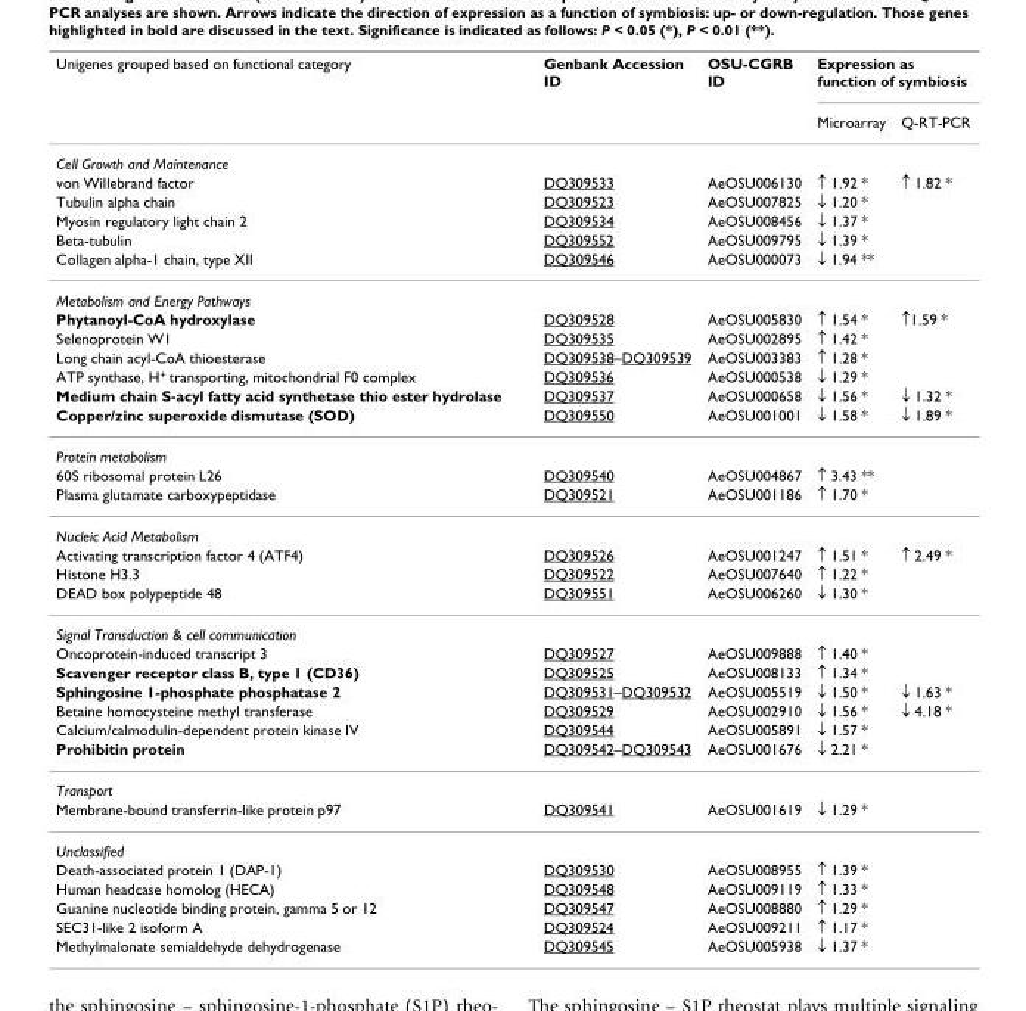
<table><thead><tr><td rowspan="2">Unigenes grouped based on functional category</td><td rowspan="2">Genbank Accession ID</td><td rowspan="2">OSU-CGRB ID</td><td colspan="2">Expression as function of symbiosis</td></tr><tr><td>Microarray</td><td>Q-RT-PCR</td></tr></thead><tbody><tr><td colspan="5">Cell Growth and Maintenance</td></tr><tr><td>von Willebrand factor</td><td>DQ309533</td><td>AeOSU006130</td><td>↑ 1.92 *</td><td>↑ 1.82 *</td></tr><tr><td>Tubulin alpha chain</td><td>DQ309523</td><td>AeOSU007825</td><td>↓ 1.20 *</td><td></td></tr><tr><td>Myosin regulatory light chain 2</td><td>DQ309534</td><td>AeOSU008456</td><td>↓ 1.37 *</td><td></td></tr><tr><td>Beta-tubulin</td><td>DQ309552</td><td>AeOSU009795</td><td>↓ 1.39 *</td><td></td></tr><tr><td>Collagen alpha-1 chain, type XII</td><td>DQ309546</td><td>AeOSU000073</td><td>↓ 1.94 **</td><td></td></tr><tr><td colspan="5">Metabolism and Energy Pathways</td></tr><tr><td>Phytanoyl-CoA hydroxylase</td><td>DQ309528</td><td>AeOSU005830</td><td>↑ 1.54 *</td><td>↑1.59 *</td></tr><tr><td>Selenoprotein W1</td><td>DQ309535</td><td>AeOSU002895</td><td>↑ 1.42 *</td><td></td></tr><tr><td>Long chain acyl-CoA thioesterase</td><td>DQ309538–DQ309539</td><td>AeOSU003383</td><td>↑ 1.28 *</td><td></td></tr><tr><td>ATP synthase, H+ transporting, mitochondrial F0 complex</td><td>DQ309536</td><td>AeOSU000538</td><td>↓ 1.29 *</td><td></td></tr><tr><td>Medium chain S-acyl fatty acid synthetase thio ester hydrolase</td><td>DQ309537</td><td>AeOSU000658</td><td>↓ 1.56 *</td><td>↓ 1.32 *</td></tr><tr><td>Copper/zinc superoxide dismutase (SOD)</td><td>DQ309550</td><td>AeOSU001001</td><td>↓ 1.58 *</td><td>↓ 1.89 *</td></tr><tr><td colspan="5">Protein metabolism</td></tr><tr><td>60S ribosomal protein L26</td><td>DQ309540</td><td>AeOSU004867</td><td>↑ 3.43 **</td><td></td></tr><tr><td>Plasma glutamate carboxypeptidase</td><td>DQ309521</td><td>AeOSU001186</td><td>↑ 1.70 *</td><td></td></tr><tr><td colspan="5">Nucleic Acid Metabolism</td></tr><tr><td>Activating transcription factor 4 (ATF4)</td><td>DQ309526</td><td>AeOSU001247</td><td>↑ 1.51 *</td><td>↑ 2.49 *</td></tr><tr><td>Histone H3.3</td><td>DQ309522</td><td>AeOSU007640</td><td>↑ 1.22 *</td><td></td></tr><tr><td>DEAD box polypeptide 48</td><td>DQ309551</td><td>AeOSU006260</td><td>↓ 1.30 *</td><td></td></tr><tr><td colspan="5">Signal Transduction &amp; cell communication</td></tr><tr><td>Oncoprotein-induced transcript 3</td><td>DQ309527</td><td>AeOSU009888</td><td>↑ 1.40 *</td><td></td></tr><tr><td>Scavenger receptor class B, type 1 (CD36)</td><td>DQ309525</td><td>AeOSU008133</td><td>↑ 1.34 *</td><td></td></tr><tr><td>Sphingosine 1-phosphate phosphatase 2</td><td>DQ309531–DQ309532</td><td>AeOSU005519</td><td>↓ 1.50 *</td><td>↓ 1.63 *</td></tr><tr><td>Betaine homocysteine methyl transferase</td><td>DQ309529</td><td>AeOSU002910</td><td>↓ 1.56 *</td><td>↓ 4.18 *</td></tr><tr><td>Calcium/calmodulin-dependent protein kinase IV</td><td>DQ309544</td><td>AeOSU005891</td><td>↓ 1.57 *</td><td></td></tr><tr><td>Prohibitin protein</td><td>DQ309542–DQ309543</td><td>AeOSU001676</td><td>↓ 2.21 *</td><td></td></tr><tr><td colspan="5">Transport</td></tr><tr><td>Membrane-bound transferrin-like protein p97</td><td>DQ309541</td><td>AeOSU001619</td><td>↓ 1.29 *</td><td></td></tr><tr><td colspan="5">Unclassified</td></tr><tr><td>Death-associated protein 1 (DAP-1)</td><td>DQ309530</td><td>AeOSU008955</td><td>↑ 1.39 *</td><td></td></tr><tr><td>Human headcase homolog (HECA)</td><td>DQ309548</td><td>AeOSU009119</td><td>↑ 1.33 *</td><td></td></tr><tr><td>Guanine nucleotide binding protein, gamma 5 or 12</td><td>DQ309547</td><td>AeOSU008880</td><td>↑ 1.29 *</td><td></td></tr><tr><td>SEC31-like 2 isoform A</td><td>DQ309524</td><td>AeOSU009211</td><td>↑ 1.17 *</td><td></td></tr><tr><td>Methylmalonate semialdehyde dehydrogenase</td><td>DQ309545</td><td>AeOSU005938</td><td>↓ 1.37 *</td><td></td></tr></tbody></table>